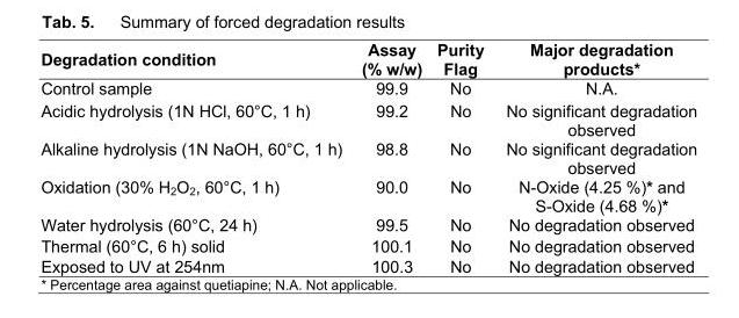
<table><thead><tr><td>Degradation condition</td><td>Assay (% w/w)</td><td>Purity Flag</td><td>Major degradation products*</td></tr></thead><tbody><tr><td>Control sample</td><td>99.9</td><td>No</td><td>N.A.</td></tr><tr><td>Acidic hydrolysis (1N HCl, 60°C, 1 h)</td><td>99.2</td><td>No</td><td>No significant degradation observed</td></tr><tr><td>Alkaline hydrolysis (1N NaOH, 60°C, 1 h)</td><td>98.8</td><td>No</td><td>No significant degradation observed</td></tr><tr><td>Oxidation (30% H<sub>2</sub>O<sub>2</sub>, 60°C, 1 h)</td><td>90.0</td><td>No</td><td>N-Oxide (4.25 %)* and S-Oxide (4.68 %)*</td></tr><tr><td>Water hydrolysis (60°C, 24 h)</td><td>99.5</td><td>No</td><td>No degradation observed</td></tr><tr><td>Thermal (60°C, 6 h) solid</td><td>100.1</td><td>No</td><td>No degradation observed</td></tr><tr><td>Exposed to UV at 254nm</td><td>100.3</td><td>No</td><td>No degradation observed</td></tr></tbody></table>